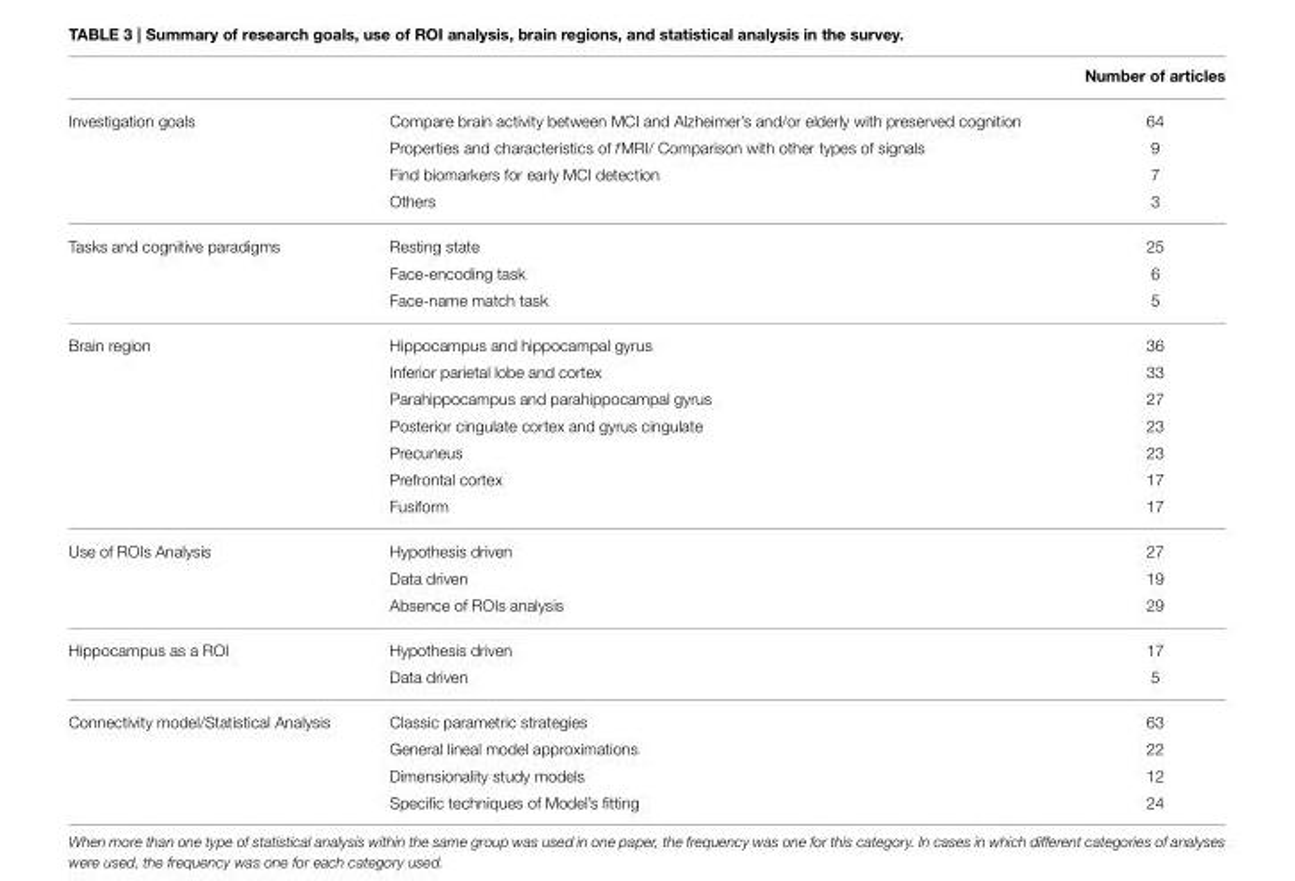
<table><thead><tr><td></td><td></td><td>Number of articles</td></tr></thead><tbody><tr><td rowspan="4">Investigation goals</td><td>Compare brain activity between MCI and Alzheimer’s and/or elderly with preserved cognition</td><td>64</td></tr><tr><td>Properties and characteristics of fMRI/ Comparison with other types of signals</td><td>9</td></tr><tr><td>Find biomarkers for early MCI detection</td><td>7</td></tr><tr><td>Others</td><td>3</td></tr><tr><td rowspan="3">Tasks and cognitive paradigms</td><td>Resting state</td><td>25</td></tr><tr><td>Face-encoding task</td><td>6</td></tr><tr><td>Face-name match task</td><td>5</td></tr><tr><td rowspan="7">Brain region</td><td>Hippocampus and hippocampal gyrus</td><td>36</td></tr><tr><td>Inferior parietal lobe and cortex</td><td>33</td></tr><tr><td>Parahippocampus and parahippocampal gyrus</td><td>27</td></tr><tr><td>Posterior cingulate cortex and gyrus cingulate</td><td>23</td></tr><tr><td>Precuneus</td><td>23</td></tr><tr><td>Prefrontal cortex</td><td>17</td></tr><tr><td>Fusiform</td><td>17</td></tr><tr><td rowspan="3">Use of ROIs Analysis</td><td>Hypothesis driven</td><td>27</td></tr><tr><td>Data driven</td><td>19</td></tr><tr><td>Absence of ROIs analysis</td><td>29</td></tr><tr><td rowspan="2">Hippocampus as a ROI</td><td>Hypothesis driven</td><td>17</td></tr><tr><td>Data driven</td><td>5</td></tr><tr><td rowspan="4">Connectivity model/Statistical Analysis</td><td>Classic parametric strategies</td><td>63</td></tr><tr><td>General lineal model approximations</td><td>22</td></tr><tr><td>Dimensionality study models</td><td>12</td></tr><tr><td>Specific techniques of Model’s fitting</td><td>24</td></tr></tbody></table>